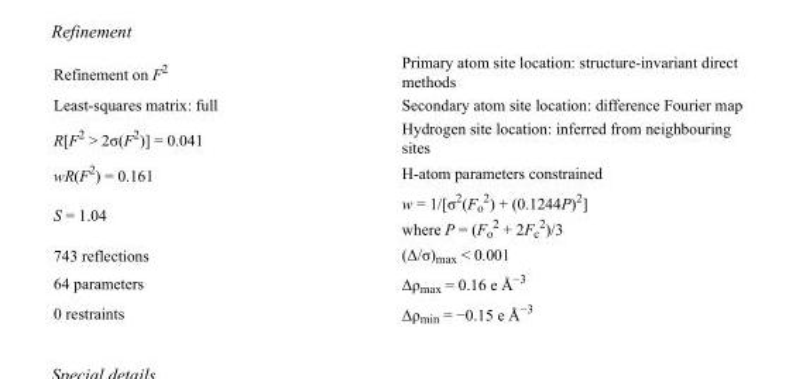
<table><tbody><tr><td>Refinement on F<sup>2</sup></td><td>Primary atom site location: structure-invariant direct methods</td></tr><tr><td>Least-squares matrix: full</td><td>Secondary atom site location: difference Fourier map</td></tr><tr><td>R[F<sup>2</sup> &gt; 2σ(F<sup>2</sup>)] = 0.041</td><td>Hydrogen site location: inferred from neighbouring sites</td></tr><tr><td>wR(F<sup>2</sup>) = 0.161</td><td>H-atom parameters constrained</td></tr><tr><td>S = 1.04</td><td>w = 1/[σ<sup>2</sup>(F<sub>o</sub> <sup>2</sup>) + (0.1244P)<sup>2</sup>] where P = (F<sub>o</sub> <sup>2</sup> + 2F<sub>c</sub> <sup>2</sup>)/3</td></tr><tr><td>743 reflections</td><td>(Δ/σ)<sub>max</sub> &lt; 0.001</td></tr><tr><td>64 parameters</td><td>Δρ<sub>max</sub> = 0.16 e Å<sup>−3</sup></td></tr><tr><td>0 restraints</td><td>Δρ<sub>min</sub> = −0.15 e Å<sup>−3</sup></td></tr></tbody></table>